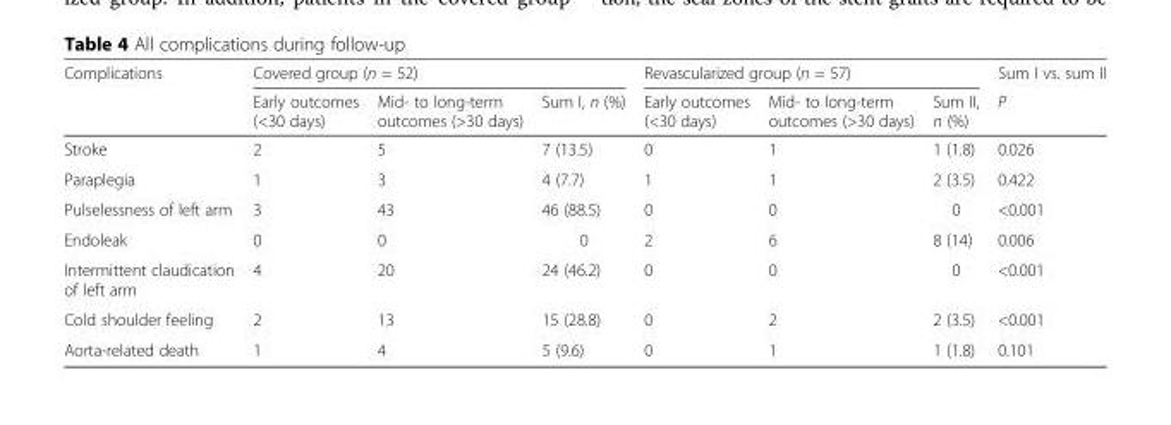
<table><thead><tr><td rowspan="2">Complications</td><td colspan="3">Covered group (n = 52)</td><td colspan="3">Revascularized group (n = 57)</td><td rowspan="2">Sum I vs. sum II P</td></tr><tr><td>Early outcomes (&lt;30 days)</td><td>Mid- to long-term outcomes (&gt;30 days)</td><td>Sum I, n (%)</td><td>Early outcomes (&lt;30 days)</td><td>Mid- to long-term outcomes (&gt;30 days)</td><td>Sum II, n (%)</td></tr></thead><tbody><tr><td>Stroke</td><td>2</td><td>5</td><td>7 (13.5)</td><td>0</td><td>1</td><td>1 (1.8)</td><td>0.026</td></tr><tr><td>Paraplegia</td><td>1</td><td>3</td><td>4 (7.7)</td><td>1</td><td>1</td><td>2 (3.5)</td><td>0.422</td></tr><tr><td>Pulselessness of left arm</td><td>3</td><td>43</td><td>46 (88.5)</td><td>0</td><td>0</td><td>0</td><td>&lt;0.001</td></tr><tr><td>Endoleak</td><td>0</td><td>0</td><td>0</td><td>2</td><td>6</td><td>8 (14)</td><td>0.006</td></tr><tr><td>Intermittent claudication of left arm</td><td>4</td><td>20</td><td>24 (46.2)</td><td>0</td><td>0</td><td>0</td><td>&lt;0.001</td></tr><tr><td>Cold shoulder feeling</td><td>2</td><td>13</td><td>15 (28.8)</td><td>0</td><td>2</td><td>2 (3.5)</td><td>&lt;0.001</td></tr><tr><td>Aorta-related death</td><td>1</td><td>4</td><td>5 (9.6)</td><td>0</td><td>1</td><td>1 (1.8)</td><td>0.101</td></tr></tbody></table>